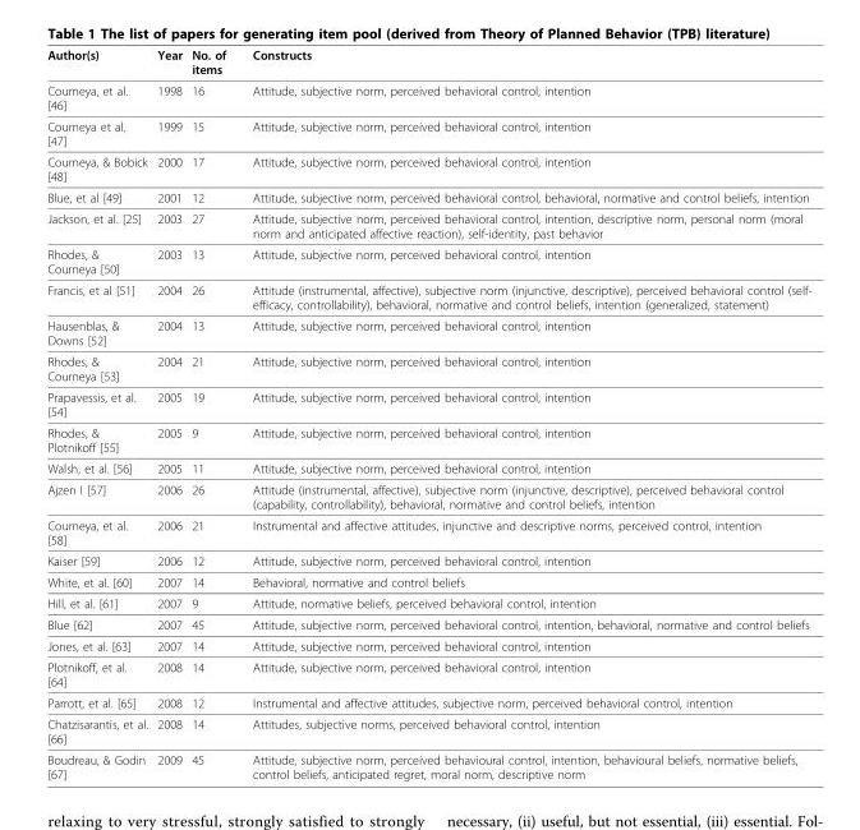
<table><thead><tr><td>Author(s)</td><td>Year</td><td>No. of items</td><td>Constructs</td></tr></thead><tbody><tr><td>Courneya, et al. [46]</td><td>1998</td><td>16</td><td>Attitude, subjective norm, perceived behavioral control, intention</td></tr><tr><td>Courneya et al. [47]</td><td>1999</td><td>15</td><td>Attitude, subjective norm, perceived behavioral control, intention</td></tr><tr><td>Courneya, &amp; Bobick [48]</td><td>2000</td><td>17</td><td>Attitude, subjective norm, perceived behavioral control, intention</td></tr><tr><td>Blue, et al [49]</td><td>2001</td><td>12</td><td>Attitude, subjective norm, perceived behavioral control, behavioral, normative and control beliefs, intention</td></tr><tr><td>Jackson, et al. [25]</td><td>2003</td><td>27</td><td>Attitude, subjective norm, perceived behavioral control, intention, descriptive norm, personal norm (moral norm and anticipated affective reaction), self-identity, past behavior</td></tr><tr><td>Rhodes, &amp; Courneya [50]</td><td>2003</td><td>13</td><td>Attitude, subjective norm, perceived behavioral control, intention</td></tr><tr><td>Francis, et al [51]</td><td>2004</td><td>26</td><td>Attitude (instrumental, affective), subjective norm (injunctive, descriptive), perceived behavioral control (self- efficacy, controllability), behavioral, normative and control beliefs, intention (generalized, statement)</td></tr><tr><td>Hausenblas, &amp; Downs [52]</td><td>2004</td><td>13</td><td>Attitude, subjective norm, perceived behavioral control, intention</td></tr><tr><td>Rhodes, &amp; Courneya [53]</td><td>2004</td><td>21</td><td>Attitude, subjective norm, perceived behavioral control, intention</td></tr><tr><td>Prapavessis, et al. [54]</td><td>2005</td><td>19</td><td>Attitude, subjective norm, perceived behavioral control, intention</td></tr><tr><td>Rhodes, &amp; Plotnikoff [55]</td><td>2005</td><td>9</td><td>Attitude, subjective norm, perceived behavioral control, intention</td></tr><tr><td>Walsh, et al. [56]</td><td>2005</td><td>11</td><td>Attitude, subjective norm, perceived behavioral control, intention</td></tr><tr><td>Ajzen I [57]</td><td>2006</td><td>26</td><td>Attitude (instrumental, affective), subjective norm (injunctive, descriptive), perceived behavioral control (capability, controllability), behavioral, normative and control beliefs, intention</td></tr><tr><td>Courneya, et al. [58]</td><td>2006</td><td>21</td><td>Instrumental and affective attitudes, injunctive and descriptive norms, perceived control, intention</td></tr><tr><td>Kaiser [59]</td><td>2006</td><td>12</td><td>Attitude, subjective norm, perceived behavioral control, intention</td></tr><tr><td>White, et al. [60]</td><td>2007</td><td>14</td><td>Behavioral, normative and control beliefs</td></tr><tr><td>Hill, et al. [61]</td><td>2007</td><td>9</td><td>Attitude, normative beliefs, perceived behavioral control, intention</td></tr><tr><td>Blue [62]</td><td>2007</td><td>45</td><td>Attitude, subjective norm, perceived behavioral control, intention, behavioral, normative and control beliefs</td></tr><tr><td>Jones, et al. [63]</td><td>2007</td><td>14</td><td>Attitude, subjective norm, perceived behavioral control, intention</td></tr><tr><td>Plotnikoff, et al. [64]</td><td>2008</td><td>14</td><td>Attitude, subjective norm, perceived behavioral control, intention</td></tr><tr><td>Parrott, et al. [65]</td><td>2008</td><td>12</td><td>Instrumental and affective attitudes, subjective norm, perceived behavioral control, intention</td></tr><tr><td>Chatzisarantis, et al. [66]</td><td>2008</td><td>14</td><td>Attitudes, subjective norms, perceived behavioral control, intention</td></tr><tr><td>Boudreau, &amp; Godin [67]</td><td>2009</td><td>45</td><td>Attitude, subjective norm, perceived behavioural control, intention, behavioural beliefs, normative beliefs, control beliefs, anticipated regret, moral norm, descriptive norm</td></tr></tbody></table>